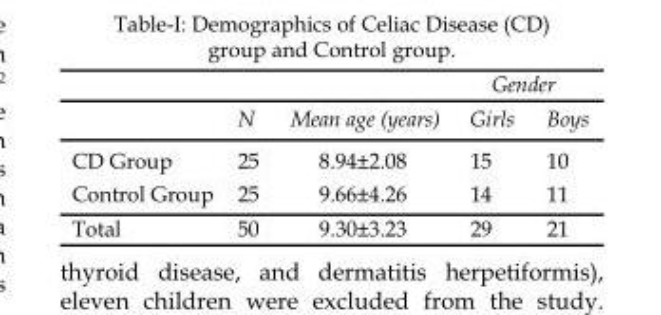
<table><thead><tr><td rowspan="2"></td><td rowspan="2">N</td><td rowspan="2">Mean age (years)</td><td colspan="2">Gender</td></tr><tr><td>Girls</td><td>Boys</td></tr></thead><tbody><tr><td>CD Group</td><td>25</td><td>8.94±2.08</td><td>15</td><td>10</td></tr><tr><td>Control Group</td><td>25</td><td>9.66±4.26</td><td>14</td><td>11</td></tr><tr><td>Total</td><td>50</td><td>9.30±3.23</td><td>29</td><td>21</td></tr></tbody></table>